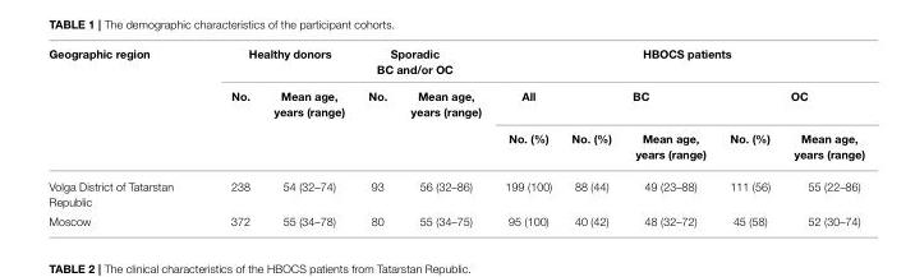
<table><thead><tr><td rowspan="3">Geographic region</td><td colspan="2">Healthy donors</td><td colspan="2">Sporadic BC and/or OC</td><td colspan="5">HBOCS patients</td></tr><tr><td rowspan="2">No.</td><td rowspan="2">Mean age, years (range)</td><td rowspan="2">No.</td><td rowspan="2">Mean age, years (range)</td><td rowspan="2">All No. (%)</td><td colspan="2">BC</td><td colspan="2">OC</td></tr><tr><td>No. (%)</td><td>Mean age, years (range)</td><td>No. (%)</td><td>Mean age, years (range)</td></tr></thead><tbody><tr><td>Volga District of Tatarstan Republic</td><td>238</td><td>54 (32–74)</td><td>93</td><td>56 (32–86)</td><td>199 (100)</td><td>88 (44)</td><td>49 (23–88)</td><td>111 (56)</td><td>55 (22–86)</td></tr><tr><td>Moscow</td><td>372</td><td>55 (34–78)</td><td>80</td><td>55 (34–75)</td><td>95 (100)</td><td>40 (42)</td><td>48 (32–72)</td><td>45 (58)</td><td>52 (30–74)</td></tr></tbody></table>